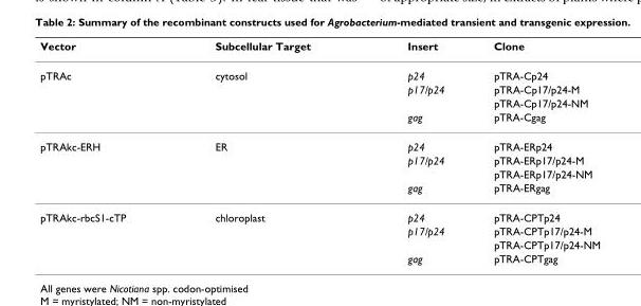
<table><thead><tr><td>Vector</td><td>Subcellular Target</td><td>Insert</td><td>Clone</td></tr></thead><tbody><tr><td rowspan="4">pTRAc</td><td>cytosol</td><td>p24</td><td>pTRA-Cp24</td></tr><tr><td></td><td>p17/p24</td><td>pTRA-Cp17/p24-M</td></tr><tr><td></td><td></td><td>pTRA-Cp17/p24-NM</td></tr><tr><td></td><td>gag</td><td>pTRA-Cgag</td></tr><tr><td rowspan="4">pTRAkc-ERH</td><td>ER</td><td>p24</td><td>pTRA-ERp24</td></tr><tr><td></td><td>p17/p24</td><td>pTRA-ERp17/p24-M</td></tr><tr><td></td><td></td><td>pTRA-ERp17/p24-NM</td></tr><tr><td></td><td>gag</td><td>pTRA-ERgag</td></tr><tr><td rowspan="4">pTRAkc-rbcS1-cTP</td><td>chloroplast</td><td>p24</td><td>pTRA-CPTp24</td></tr><tr><td></td><td>p17/p24</td><td>pTRA-CPTp17/p24-M</td></tr><tr><td></td><td></td><td>pTRA-CPTp17/p24-NM</td></tr><tr><td></td><td>gag</td><td>pTRA-CPTgag</td></tr></tbody></table>